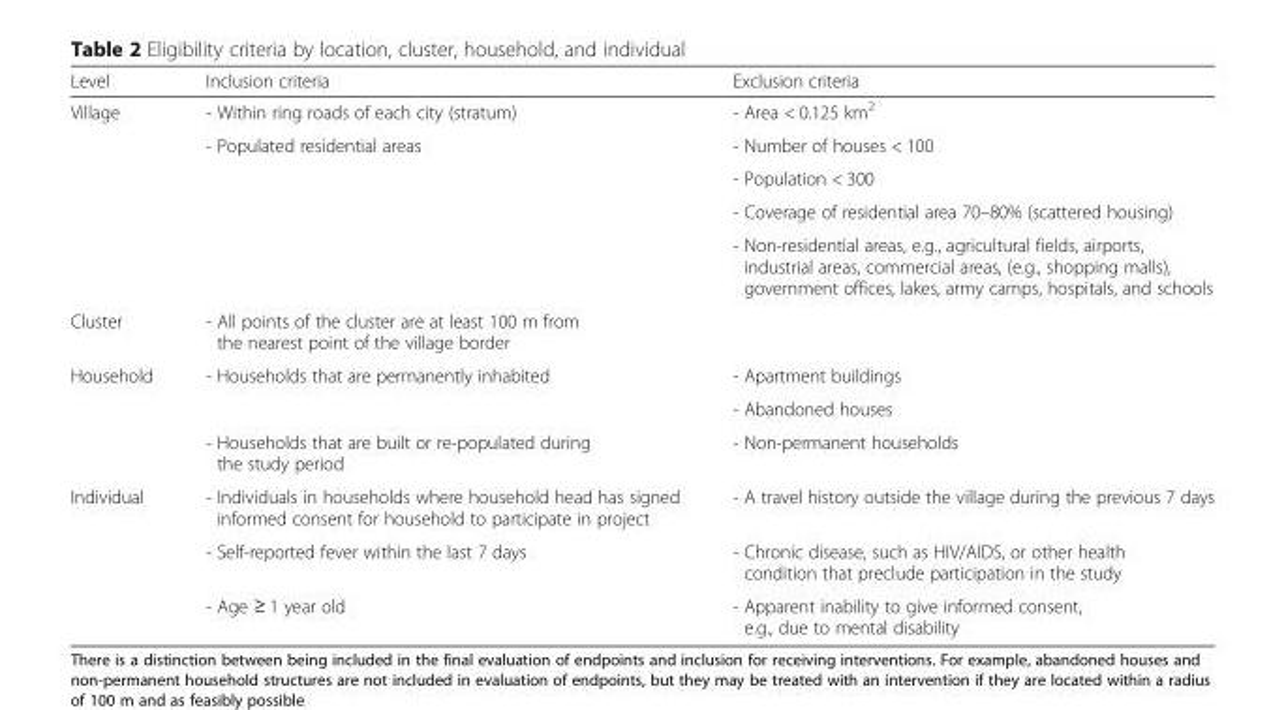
<table><thead><tr><td>Level</td><td>Inclusion criteria</td><td>Exclusion criteria</td></tr></thead><tbody><tr><td rowspan="5">Village</td><td>- Within ring roads of each city (stratum)</td><td>- Area &lt; 0.125 km<sup>2</sup></td></tr><tr><td rowspan="4">- Populated residential areas</td><td>- Number of houses &lt; 100</td></tr><tr><td>- Population &lt; 300</td></tr><tr><td>- Coverage of residential area 70–80% (scattered housing)</td></tr><tr><td>- Non-residential areas, e.g., agricultural fields, airports, industrial areas, commercial areas, (e.g., shopping malls), government offices, lakes, army camps, hospitals, and schools</td></tr><tr><td>Cluster</td><td>- All points of the cluster are at least 100 m from the nearest point of the village border</td><td></td></tr><tr><td rowspan="3">Household</td><td rowspan="2">- Households that are permanently inhabited</td><td>- Apartment buildings</td></tr><tr><td>- Abandoned houses</td></tr><tr><td>- Households that are built or re-populated during the study period</td><td>- Non-permanent households</td></tr><tr><td rowspan="3">Individual</td><td>- Individuals in households where household head has signed informed consent for household to participate in project</td><td>- A travel history outside the village during the previous 7 days</td></tr><tr><td>- Self-reported fever within the last 7 days</td><td>- Chronic disease, such as HIV/AIDS, or other health condition that preclude participation in the study</td></tr><tr><td>- Age ≥ 1 year old</td><td>- Apparent inability to give informed consent, e.g., due to mental disability</td></tr></tbody></table>